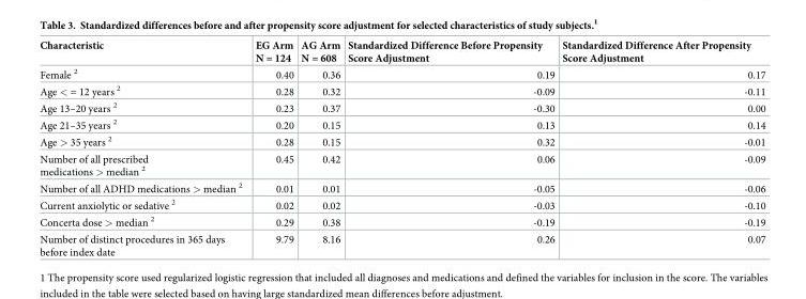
<table><thead><tr><td>Characteristic</td><td>EG Arm N = 124</td><td>AG Arm N = 608</td><td>Standardized Difference Before Propensity Score Adjustment</td><td>Standardized Difference After Propensity Score Adjustment</td></tr></thead><tbody><tr><td>Female <sup>2</sup></td><td>0.40</td><td>0.36</td><td>0.19</td><td>0.17</td></tr><tr><td>Age &lt; = 12 years <sup>2</sup></td><td>0.28</td><td>0.32</td><td>-0.09</td><td>-0.11</td></tr><tr><td>Age 13–20 years <sup>2</sup></td><td>0.23</td><td>0.37</td><td>-0.30</td><td>0.00</td></tr><tr><td>Age 21–35 years <sup>2</sup></td><td>0.20</td><td>0.15</td><td>0.13</td><td>0.14</td></tr><tr><td>Age &gt; 35 years <sup>2</sup></td><td>0.28</td><td>0.15</td><td>0.32</td><td>-0.01</td></tr><tr><td>Number of all prescribed medications &gt; median <sup>2</sup></td><td>0.45</td><td>0.42</td><td>0.06</td><td>-0.09</td></tr><tr><td>Number of all ADHD medications &gt; median <sup>2</sup></td><td>0.01</td><td>0.01</td><td>-0.05</td><td>-0.06</td></tr><tr><td>Current anxiolytic or sedative <sup>2</sup></td><td>0.02</td><td>0.02</td><td>-0.03</td><td>-0.10</td></tr><tr><td>Concerta dose &gt; median <sup>2</sup></td><td>0.29</td><td>0.38</td><td>-0.19</td><td>-0.19</td></tr><tr><td>Number of distinct procedures in 365 days before index date</td><td>9.79</td><td>8.16</td><td>0.26</td><td>0.07</td></tr></tbody></table>